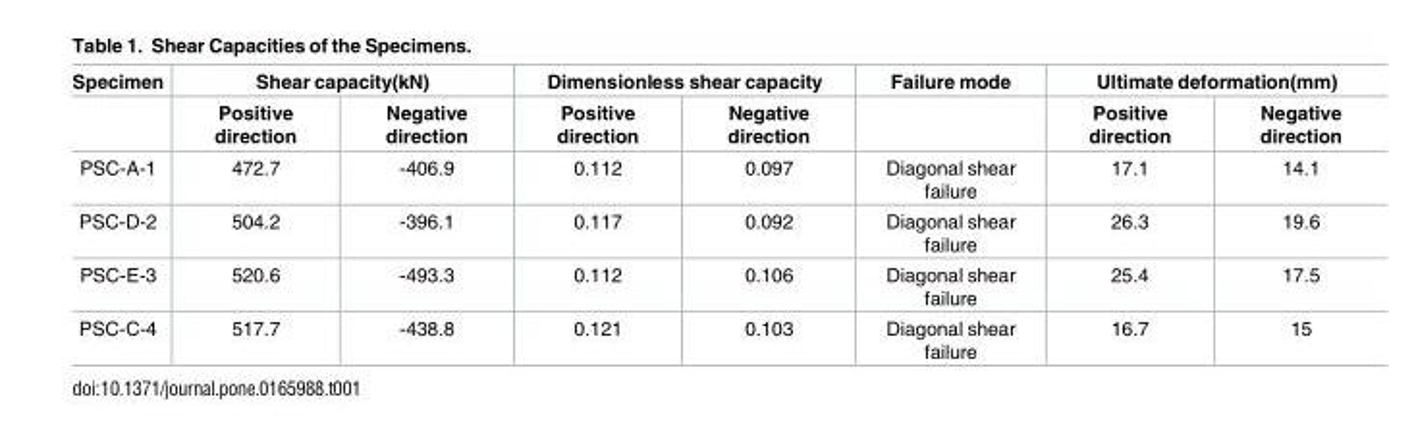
<table><thead><tr><td rowspan="2">Specimen</td><td colspan="2">Shear capacity(kN)</td><td colspan="2">Dimensionless shear capacity</td><td rowspan="2">Failure mode</td><td colspan="2">Ultimate deformation(mm)</td></tr><tr><td>Positive direction</td><td>Negative direction</td><td>Positive direction</td><td>Negative direction</td><td>Positive direction</td><td>Negative direction</td></tr></thead><tbody><tr><td>PSC-A-1</td><td>472.7</td><td>-406.9</td><td>0.112</td><td>0.097</td><td>Diagonal shear failure</td><td>17.1</td><td>14.1</td></tr><tr><td>PSC-D-2</td><td>504.2</td><td>-396.1</td><td>0.117</td><td>0.092</td><td>Diagonal shear failure</td><td>26.3</td><td>19.6</td></tr><tr><td>PSC-E-3</td><td>520.6</td><td>-493.3</td><td>0.112</td><td>0.106</td><td>Diagonal shear failure</td><td>25.4</td><td>17.5</td></tr><tr><td>PSC-C-4</td><td>517.7</td><td>-438.8</td><td>0.121</td><td>0.103</td><td>Diagonal shear failure</td><td>16.7</td><td>15</td></tr></tbody></table>